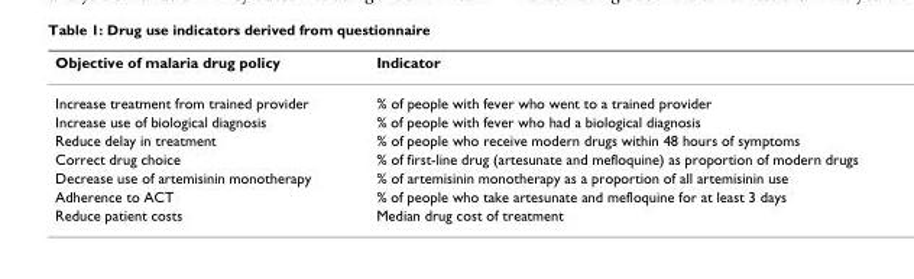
<table><thead><tr><td>Objective of malaria drug policy</td><td>Indicator</td></tr></thead><tbody><tr><td>Increase treatment from trained provider</td><td>% of people with fever who went to a trained provider</td></tr><tr><td>Increase use of biological diagnosis</td><td>% of people with fever who had a biological diagnosis</td></tr><tr><td>Reduce delay in treatment</td><td>% of people who receive modern drugs within 48 hours of symptoms</td></tr><tr><td>Correct drug choice</td><td>% of first-line drug (artesunate and mefloquine) as proportion of modern drugs</td></tr><tr><td>Decrease use of artemisinin monotherapy</td><td>% of artemisinin monotherapy as a proportion of all artemisinin use</td></tr><tr><td>Adherence to ACT</td><td>% of people who take artesunate and mefloquine for at least 3 days</td></tr><tr><td>Reduce patient costs</td><td>Median drug cost of treatment</td></tr></tbody></table>